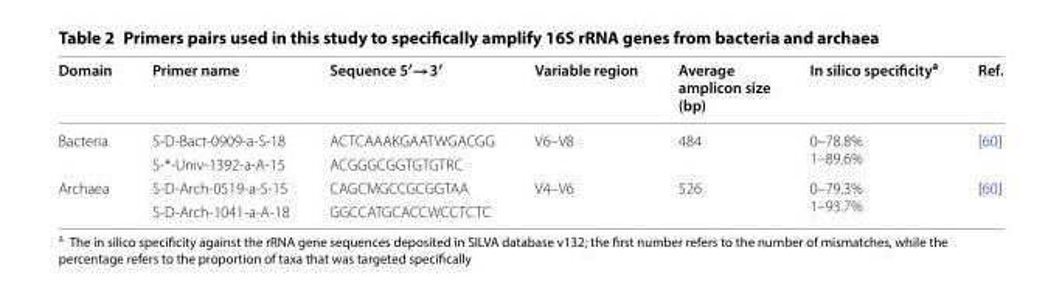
<table><thead><tr><td>Domain</td><td>Primer name</td><td>Sequence 5′→3′</td><td>Variable region</td><td>Average amplicon size (bp)</td><td>In silico specificity<sup>a</sup></td><td>Ref.</td></tr></thead><tbody><tr><td rowspan="2">Bacteria</td><td>S-D-Bact-0909-a-S-18</td><td>ACT CAA AKGAA TWG ACGG</td><td rowspan="2">V6–V8</td><td rowspan="2">484</td><td rowspan="2">0–78.8% 1–89.6%</td><td rowspan="2">[60]</td></tr><tr><td>S-*-Univ-1392-a-A-15</td><td>ACG GGC GGT GTG TRC</td></tr><tr><td rowspan="2">Archaea</td><td>S-D-Arch-0519-a-S-15</td><td>CAGCMGCC GCG GTAA</td><td rowspan="2">V4–V6</td><td rowspan="2">526</td><td rowspan="2">0–79.3% 1–93.7%</td><td rowspan="2">[60]</td></tr><tr><td>S-D-Arch-1041-a-A-18</td><td>GGC CAT GCA CCW CCT CTC</td></tr></tbody></table>